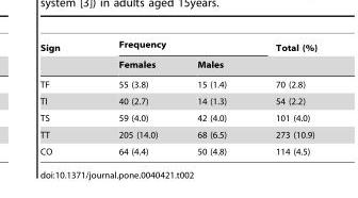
<table><thead><tr><td rowspan="2">Sign</td><td colspan="2">Frequency</td><td rowspan="2">Total (%)</td></tr><tr><td>Females</td><td>Males</td></tr></thead><tbody><tr><td>TF</td><td>55 (3.8)</td><td>15 (1.4)</td><td>70 (2.8)</td></tr><tr><td>TI</td><td>40 (2.7)</td><td>14 (1.3)</td><td>54 (2.2)</td></tr><tr><td>TS</td><td>59 (4.0)</td><td>42 (4.0)</td><td>101 (4.0)</td></tr><tr><td>TT</td><td>205 (14.0)</td><td>68 (6.5)</td><td>273 (10.9)</td></tr><tr><td>CO</td><td>64 (4.4)</td><td>50 (4.8)</td><td>114 (4.5)</td></tr></tbody></table>